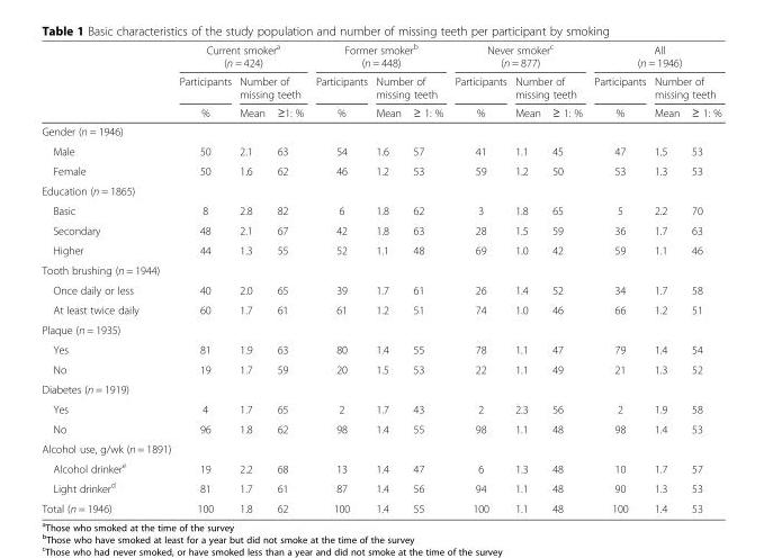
<table><thead><tr><td rowspan="4"></td><td rowspan="2" colspan="3">Current smoker<sup>a</sup> (n = 424)</td><td rowspan="2" colspan="3">Former smoker<sup>b</sup> (n = 448)</td><td rowspan="2" colspan="3">Never smoker<sup>c</sup> (n = 877)</td><td rowspan="2" colspan="3">All (n = 1946)</td></tr><tr></tr><tr><td rowspan="2">Participants %</td><td colspan="2">Number of missing teeth</td><td rowspan="2">Participants %</td><td colspan="2">Number of missing teeth</td><td rowspan="2">Participants %</td><td colspan="2">Number of missing teeth</td><td rowspan="2">Participants %</td><td colspan="2">Number of missing teeth</td></tr><tr><td>Mean</td><td>≥1: %</td><td>Mean</td><td>≥ 1: %</td><td>Mean</td><td>≥ 1: %</td><td>Mean</td><td>≥ 1: %</td></tr></thead><tbody><tr><td colspan="13">Gender (n = 1946)</td></tr><tr><td>Male</td><td>50</td><td>2.1</td><td>63</td><td>54</td><td>1.6</td><td>57</td><td>41</td><td>1.1</td><td>45</td><td>47</td><td>1.5</td><td>53</td></tr><tr><td>Female</td><td>50</td><td>1.6</td><td>62</td><td>46</td><td>1.2</td><td>53</td><td>59</td><td>1.2</td><td>50</td><td>53</td><td>1.3</td><td>53</td></tr><tr><td colspan="13">Education (n = 1865)</td></tr><tr><td>Basic</td><td>8</td><td>2.8</td><td>82</td><td>6</td><td>1.8</td><td>62</td><td>3</td><td>1.8</td><td>65</td><td>5</td><td>2.2</td><td>70</td></tr><tr><td>Secondary</td><td>48</td><td>2.1</td><td>67</td><td>42</td><td>1.8</td><td>63</td><td>28</td><td>1.5</td><td>59</td><td>36</td><td>1.7</td><td>63</td></tr><tr><td>Higher</td><td>44</td><td>1.3</td><td>55</td><td>52</td><td>1.1</td><td>48</td><td>69</td><td>1.0</td><td>42</td><td>59</td><td>1.1</td><td>46</td></tr><tr><td colspan="13">Tooth brushing (n = 1944)</td></tr><tr><td>Once daily or less</td><td>40</td><td>2.0</td><td>65</td><td>39</td><td>1.7</td><td>61</td><td>26</td><td>1.4</td><td>52</td><td>34</td><td>1.7</td><td>58</td></tr><tr><td>At least twice daily</td><td>60</td><td>1.7</td><td>61</td><td>61</td><td>1.2</td><td>51</td><td>74</td><td>1.0</td><td>46</td><td>66</td><td>1.2</td><td>51</td></tr><tr><td colspan="13">Plaque (n = 1935)</td></tr><tr><td>Yes</td><td>81</td><td>1.9</td><td>63</td><td>80</td><td>1.4</td><td>55</td><td>78</td><td>1.1</td><td>47</td><td>79</td><td>1.4</td><td>54</td></tr><tr><td>No</td><td>19</td><td>1.7</td><td>59</td><td>20</td><td>1.5</td><td>53</td><td>22</td><td>1.1</td><td>49</td><td>21</td><td>1.3</td><td>52</td></tr><tr><td colspan="13">Diabetes (n = 1919)</td></tr><tr><td>Yes</td><td>4</td><td>1.7</td><td>65</td><td>2</td><td>1.7</td><td>43</td><td>2</td><td>2.3</td><td>56</td><td>2</td><td>1.9</td><td>58</td></tr><tr><td>No</td><td>96</td><td>1.8</td><td>62</td><td>98</td><td>1.4</td><td>55</td><td>98</td><td>1.1</td><td>48</td><td>98</td><td>1.4</td><td>53</td></tr><tr><td colspan="13">Alcohol use, g/wk (n = 1891)</td></tr><tr><td>Alcohol drinker<sup>e</sup></td><td>19</td><td>2.2</td><td>68</td><td>13</td><td>1.4</td><td>47</td><td>6</td><td>1.3</td><td>48</td><td>10</td><td>1.7</td><td>57</td></tr><tr><td>Light drinker<sup>d</sup></td><td>81</td><td>1.7</td><td>61</td><td>87</td><td>1.4</td><td>56</td><td>94</td><td>1.1</td><td>48</td><td>90</td><td>1.3</td><td>53</td></tr><tr><td>Total (n = 1946)</td><td>100</td><td>1.8</td><td>62</td><td>100</td><td>1.4</td><td>55</td><td>100</td><td>1.1</td><td>48</td><td>100</td><td>1.4</td><td>53</td></tr></tbody></table>